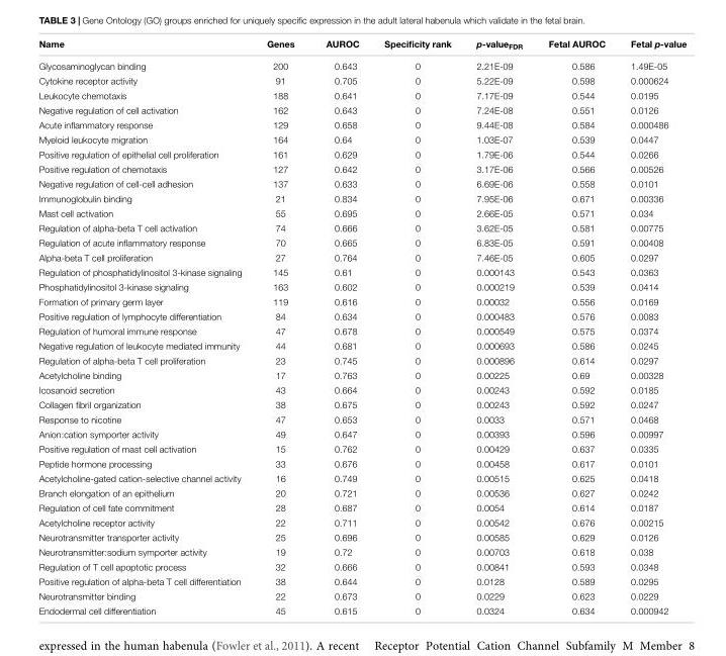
<table><thead><tr><td>Name</td><td>Genes</td><td>AUROC</td><td>Specificity rank</td><td>p-value<sub>FDR</sub></td><td>Fetal AUROC</td><td>Fetal p-value</td></tr></thead><tbody><tr><td>Glycosaminoglycan binding</td><td>200</td><td>0.643</td><td>0</td><td>2.21E-09</td><td>0.586</td><td>1.49E-05</td></tr><tr><td>Cytokine receptor activity</td><td>91</td><td>0.705</td><td>0</td><td>5.22E-09</td><td>0.598</td><td>0.000624</td></tr><tr><td>Leukocyte chemotaxis</td><td>188</td><td>0.641</td><td>0</td><td>7.17E-09</td><td>0.544</td><td>0.0195</td></tr><tr><td>Negative regulation of cell activation</td><td>162</td><td>0.643</td><td>0</td><td>7.24E-08</td><td>0.551</td><td>0.0126</td></tr><tr><td>Acute inflammatory response</td><td>129</td><td>0.658</td><td>0</td><td>9.44E-08</td><td>0.584</td><td>0.000486</td></tr><tr><td>Myeloid leukocyte migration</td><td>164</td><td>0.64</td><td>0</td><td>1.03E-07</td><td>0.539</td><td>0.0447</td></tr><tr><td>Positive regulation of epithelial cell proliferation</td><td>161</td><td>0.629</td><td>0</td><td>1.79E-06</td><td>0.544</td><td>0.0266</td></tr><tr><td>Positive regulation of chemotaxis</td><td>127</td><td>0.642</td><td>0</td><td>3.17E-06</td><td>0.566</td><td>0.00526</td></tr><tr><td>Negative regulation of cell-cell adhesion</td><td>137</td><td>0.633</td><td>0</td><td>6.69E-06</td><td>0.558</td><td>0.0101</td></tr><tr><td>Immunoglobulin binding</td><td>21</td><td>0.834</td><td>0</td><td>7.95E-06</td><td>0.671</td><td>0.00336</td></tr><tr><td>Mast cell activation</td><td>55</td><td>0.695</td><td>0</td><td>2.66E-05</td><td>0.571</td><td>0.034</td></tr><tr><td>Regulation of alpha-beta T cell activation</td><td>74</td><td>0.666</td><td>0</td><td>3.62E-05</td><td>0.581</td><td>0.00775</td></tr><tr><td>Regulation of acute inflammatory response</td><td>70</td><td>0.665</td><td>0</td><td>6.83E-05</td><td>0.591</td><td>0.00408</td></tr><tr><td>Alpha-beta T cell proliferation</td><td>27</td><td>0.764</td><td>0</td><td>7.46E-05</td><td>0.605</td><td>0.0297</td></tr><tr><td>Regulation of phosphatidylinositol 3-kinase signaling</td><td>145</td><td>0.61</td><td>0</td><td>0.000143</td><td>0.543</td><td>0.0363</td></tr><tr><td>Phosphatidylinositol 3-kinase signaling</td><td>163</td><td>0.602</td><td>0</td><td>0.000219</td><td>0.539</td><td>0.0414</td></tr><tr><td>Formation of primary germ layer</td><td>119</td><td>0.616</td><td>0</td><td>0.00032</td><td>0.556</td><td>0.0169</td></tr><tr><td>Positive regulation of lymphocyte differentiation</td><td>84</td><td>0.634</td><td>0</td><td>0.000483</td><td>0.576</td><td>0.0083</td></tr><tr><td>Regulation of humoral immune response</td><td>47</td><td>0.678</td><td>0</td><td>0.000549</td><td>0.575</td><td>0.0374</td></tr><tr><td>Negative regulation of leukocyte mediated immunity</td><td>44</td><td>0.681</td><td>0</td><td>0.000693</td><td>0.586</td><td>0.0245</td></tr><tr><td>Regulation of alpha-beta T cell proliferation</td><td>23</td><td>0.745</td><td>0</td><td>0.000896</td><td>0.614</td><td>0.0297</td></tr><tr><td>Acetylcholine binding</td><td>17</td><td>0.763</td><td>0</td><td>0.00225</td><td>0.69</td><td>0.00328</td></tr><tr><td>Icosanoid secretion</td><td>43</td><td>0.664</td><td>0</td><td>0.00243</td><td>0.592</td><td>0.0185</td></tr><tr><td>Collagen fibril organization</td><td>38</td><td>0.675</td><td>0</td><td>0.00243</td><td>0.592</td><td>0.0247</td></tr><tr><td>Response to nicotine</td><td>47</td><td>0.653</td><td>0</td><td>0.0033</td><td>0.571</td><td>0.0468</td></tr><tr><td>Anion:cation symporter activity</td><td>49</td><td>0.647</td><td>0</td><td>0.00393</td><td>0.596</td><td>0.00997</td></tr><tr><td>Positive regulation of mast cell activation</td><td>15</td><td>0.762</td><td>0</td><td>0.00429</td><td>0.637</td><td>0.0335</td></tr><tr><td>Peptide hormone processing</td><td>33</td><td>0.676</td><td>0</td><td>0.00458</td><td>0.617</td><td>0.0101</td></tr><tr><td>Acetylcholine-gated cation-selective channel activity</td><td>16</td><td>0.749</td><td>0</td><td>0.00515</td><td>0.625</td><td>0.0418</td></tr><tr><td>Branch elongation of an epithelium</td><td>20</td><td>0.721</td><td>0</td><td>0.00536</td><td>0.627</td><td>0.0242</td></tr><tr><td>Regulation of cell fate commitment</td><td>28</td><td>0.687</td><td>0</td><td>0.0054</td><td>0.614</td><td>0.0187</td></tr><tr><td>Acetylcholine receptor activity</td><td>22</td><td>0.711</td><td>0</td><td>0.00542</td><td>0.676</td><td>0.00215</td></tr><tr><td>Neurotransmitter transporter activity</td><td>25</td><td>0.696</td><td>0</td><td>0.00585</td><td>0.629</td><td>0.0126</td></tr><tr><td>Neurotransmitter:sodium symporter activity</td><td>19</td><td>0.72</td><td>0</td><td>0.00703</td><td>0.618</td><td>0.038</td></tr><tr><td>Regulation of T cell apoptotic process</td><td>32</td><td>0.666</td><td>0</td><td>0.00841</td><td>0.593</td><td>0.0348</td></tr><tr><td>Positive regulation of alpha-beta T cell differentiation</td><td>38</td><td>0.644</td><td>0</td><td>0.0128</td><td>0.589</td><td>0.0295</td></tr><tr><td>Neurotransmitter binding</td><td>22</td><td>0.673</td><td>0</td><td>0.0229</td><td>0.623</td><td>0.0229</td></tr><tr><td>Endodermal cell differentiation</td><td>45</td><td>0.615</td><td>0</td><td>0.0324</td><td>0.634</td><td>0.000942</td></tr></tbody></table>